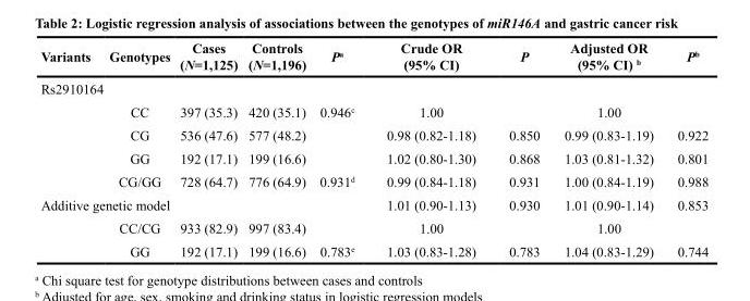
<table><thead><tr><td>Variants</td><td>Genotypes</td><td>Cases (N=1,125)</td><td>Controls (N=1,196)</td><td>P<sup>a</sup></td><td>Crude OR (95% CI)</td><td>P</td><td>Adjusted OR (95% CI) <sup>b</sup></td><td>P<sup>b</sup></td></tr></thead><tbody><tr><td colspan="9">Rs2910164</td></tr><tr><td></td><td>CC</td><td>397 (35.3)</td><td>420 (35.1)</td><td>0.946<sup>c</sup></td><td>1.00</td><td></td><td>1.00</td><td></td></tr><tr><td></td><td>CG</td><td>536 (47.6)</td><td>577 (48.2)</td><td></td><td>0.98 (0.82-1.18)</td><td>0.850</td><td>0.99 (0.83-1.19)</td><td>0.922</td></tr><tr><td></td><td>GG</td><td>192 (17.1)</td><td>199 (16.6)</td><td></td><td>1.02 (0.80-1.30)</td><td>0.868</td><td>1.03 (0.81-1.32)</td><td>0.801</td></tr><tr><td></td><td>CG/GG</td><td>728 (64.7)</td><td>776 (64.9)</td><td>0.931<sup>d</sup></td><td>0.99 (0.84-1.18)</td><td>0.931</td><td>1.00 (0.84-1.19)</td><td>0.988</td></tr><tr><td colspan="5">Additive genetic model</td><td>1.01 (0.90-1.13)</td><td>0.930</td><td>1.01 (0.90-1.14)</td><td>0.853</td></tr><tr><td></td><td>CC/CG</td><td>933 (82.9)</td><td>997 (83.4)</td><td></td><td>1.00</td><td></td><td>1.00</td><td></td></tr><tr><td></td><td>GG</td><td>192 (17.1)</td><td>199 (16.6)</td><td>0.783<sup>e</sup></td><td>1.03 (0.83-1.28)</td><td>0.783</td><td>1.04 (0.83-1.29)</td><td>0.744</td></tr></tbody></table>